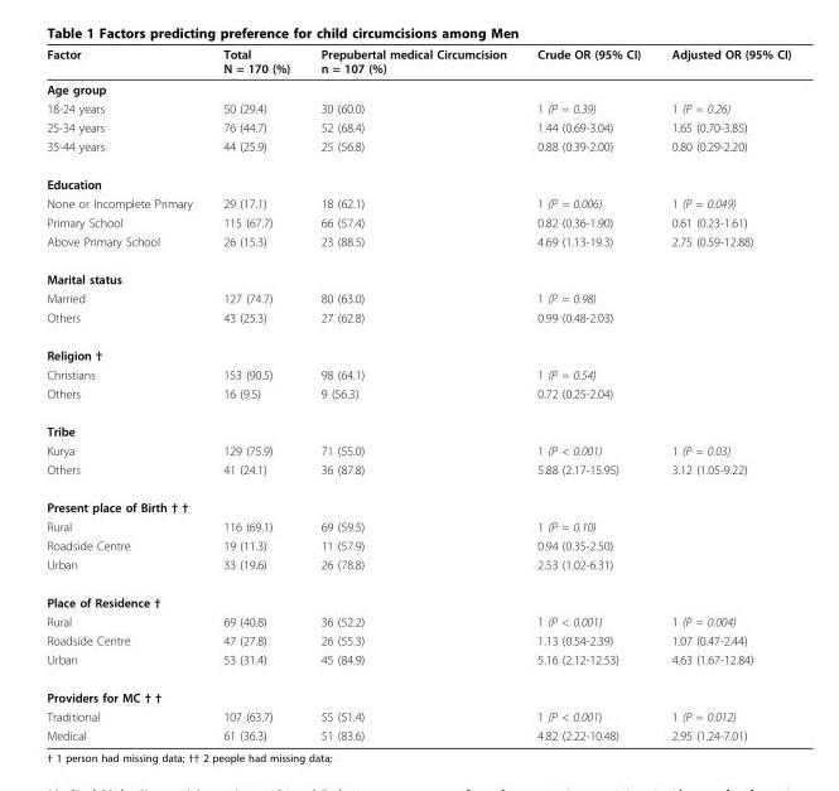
<table><thead><tr><td>Factor</td><td>Total N = 170 (%)</td><td>Prepubertal medical Circumcision n = 107 (%)</td><td>Crude OR (95% CI)</td><td>Adjusted OR (95% CI)</td></tr></thead><tbody><tr><td colspan="5">Age group</td></tr><tr><td>18-24 years</td><td>50 (29.4)</td><td>30 (60.0)</td><td>1 (P = 0.39)</td><td>1 (P = 0.26)</td></tr><tr><td>25-34 years</td><td>76 (44.7)</td><td>52 (68.4)</td><td>1.44 (0.69-3.04)</td><td>1.65 (0.70-3.85)</td></tr><tr><td>35-44 years</td><td>44 (25.9)</td><td>25 (56.8)</td><td>0.88 (0.39-2.00)</td><td>0.80 (0.29-2.20)</td></tr><tr><td colspan="5">Education</td></tr><tr><td>None or Incomplete Primary</td><td>29 (17.1)</td><td>18 (62.1)</td><td>1 (P = 0.006)</td><td>1 (P = 0.049)</td></tr><tr><td>Primary School</td><td>115 (67.7)</td><td>66 (57.4)</td><td>0.82 (0.36-1.90)</td><td>0.61 (0.23-1.61)</td></tr><tr><td>Above Primary School</td><td>26 (15.3)</td><td>23 (88.5)</td><td>4.69 (1.13-19.3)</td><td>2.75 (0.59-12.88)</td></tr><tr><td colspan="5">Marital status</td></tr><tr><td>Married</td><td>127 (74.7)</td><td>80 (63.0)</td><td>1 (P = 0.98)</td><td></td></tr><tr><td>Others</td><td>43 (25.3)</td><td>27 (62.8)</td><td>0.99 (0.48-2.03)</td><td></td></tr><tr><td colspan="5">Religion †</td></tr><tr><td>Christians</td><td>153 (90.5)</td><td>98 (64.1)</td><td>1 (P = 0.54)</td><td></td></tr><tr><td>Others</td><td>16 (9.5)</td><td>9 (56.3)</td><td>0.72 (0.25-2.04)</td><td></td></tr><tr><td colspan="5">Tribe</td></tr><tr><td>Kurya</td><td>129 (75.9)</td><td>71 (55.0)</td><td>1 (P &lt; 0.001)</td><td>1 (P = 0.03)</td></tr><tr><td>Others</td><td>41 (24.1)</td><td>36 (87.8)</td><td>5.88 (2.17-15.95)</td><td>3.12 (1.05-9.22)</td></tr><tr><td colspan="5">Present place of Birth † †</td></tr><tr><td>Rural</td><td>116 (69.1)</td><td>69 (59.5)</td><td>1 (P = 0.10)</td><td></td></tr><tr><td>Roadside Centre</td><td>19 (11.3)</td><td>11 (57.9)</td><td>0.94 (0.35-2.50)</td><td></td></tr><tr><td>Urban</td><td>33 (19.6)</td><td>26 (78.8)</td><td>2.53 (1.02-6.31)</td><td></td></tr><tr><td colspan="5">Place of Residence †</td></tr><tr><td>Rural</td><td>69 (40.8)</td><td>36 (52.2)</td><td>1 (P &lt; 0.001)</td><td>1 (P = 0.004)</td></tr><tr><td>Roadside Centre</td><td>47 (27.8)</td><td>26 (55.3)</td><td>1.13 (0.54-2.39)</td><td>1.07 (0.47-2.44)</td></tr><tr><td>Urban</td><td>53 (31.4)</td><td>45 (84.9)</td><td>5.16 (2.12-12.53)</td><td>4.63 (1.67-12.84)</td></tr><tr><td colspan="5">Providers for MC † †</td></tr><tr><td>Traditional</td><td>107 (63.7)</td><td>55 (51.4)</td><td>1 (P &lt; 0.001)</td><td>1 (P = 0.012)</td></tr><tr><td>Medical</td><td>61 (36.3)</td><td>51 (83.6)</td><td>4.82 (2.22-10.48)</td><td>2.95 (1.24-7.01)</td></tr></tbody></table>